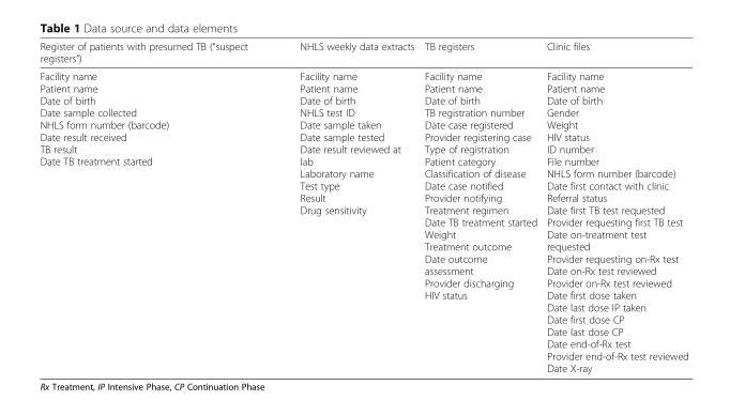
<table><thead><tr><td>Register of patients with presumed TB (“suspect registers”)</td><td>NHLS weekly data extracts</td><td>TB registers</td><td>Clinic files</td></tr></thead><tbody><tr><td>Facility name Patient name Date of birth Date sample collected NHLS form number (barcode) Date result received TB result Date TB treatment started</td><td>Facility name Patient name Date of birth NHLS test ID Date sample taken Date sample tested Date result reviewed at lab Laboratory name Test type Result Drug sensitivity</td><td>Facility name Patient name Date of birth TB registration number Date case registered Provider registering case Type of registration Patient category Classification of disease Date case notified Provider notifying Treatment regimen Date TB treatment started Weight Treatment outcome Date outcome assessment Provider discharging HIV status</td><td>Facility name Patient name Date of birth Gender Weight HIV status ID number File number NHLS form number (barcode) Date first contact with clinic Referral status Date first TB test requested Provider requesting first TB test Date on-treatment test requested Provider requesting on-Rx test Date on-Rx test reviewed Provider on-Rx test reviewed Date first dose taken Date last dose IP taken Date first dose CP Date last dose CP Date end-of-Rx test Provider end-of-Rx test reviewed Date X-ray</td></tr></tbody></table>